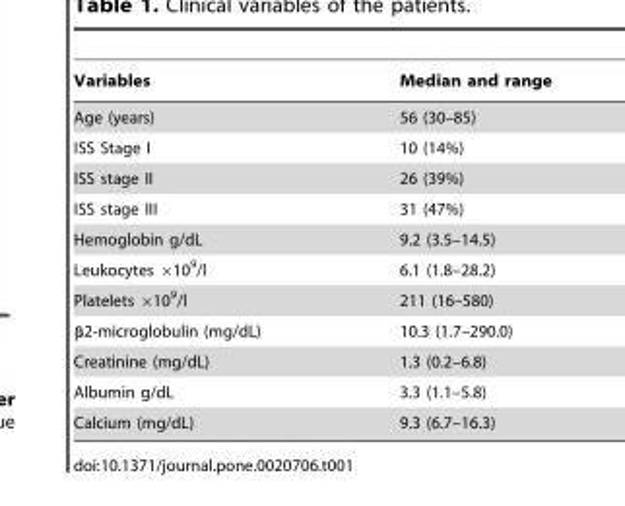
<table><thead><tr><td>Variables</td><td>Median and range</td></tr></thead><tbody><tr><td>Age (years)</td><td>56 (30–85)</td></tr><tr><td>ISS Stage I</td><td>10 (14%)</td></tr><tr><td>ISS stage II</td><td>26 (39%)</td></tr><tr><td>ISS stage III</td><td>31 (47%)</td></tr><tr><td>Hemoglobin g/dL</td><td>9.2 (3.5–14.5)</td></tr><tr><td>Leukocytes ×10<sup>9</sup>/l</td><td>6.1 (1.8–28.2)</td></tr><tr><td>Platelets ×10<sup>9</sup>/l</td><td>211 (16–580)</td></tr><tr><td>β2-microglobulin (mg/dL)</td><td>10.3 (1.7–290.0)</td></tr><tr><td>Creatinine (mg/dL)</td><td>1.3 (0.2–6.8)</td></tr><tr><td>Albumin g/dL</td><td>3.3 (1.1–5.8)</td></tr><tr><td>Calcium (mg/dL)</td><td>9.3 (6.7–16.3)</td></tr></tbody></table>